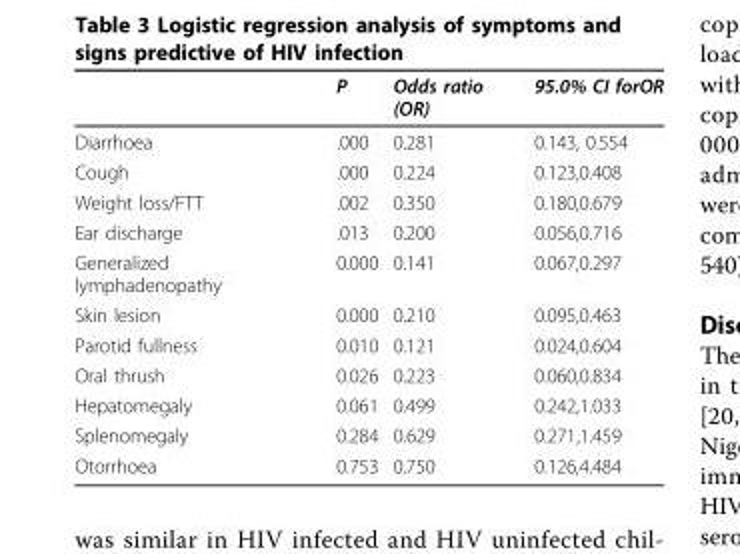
<table><thead><tr><td></td><td>P</td><td>Odds ratio (OR)</td><td>95.0% CI forOR</td></tr></thead><tbody><tr><td>Diarrhoea</td><td>.000</td><td>0.281</td><td>0.143, 0.554</td></tr><tr><td>Cough</td><td>.000</td><td>0.224</td><td>0.123,0.408</td></tr><tr><td>Weight loss/FTT</td><td>.002</td><td>0.350</td><td>0.180,0.679</td></tr><tr><td>Ear discharge</td><td>.013</td><td>0.200</td><td>0.056,0.716</td></tr><tr><td>Generalized lymphadenopathy</td><td>0.000</td><td>0.141</td><td>0.067,0.297</td></tr><tr><td>Skin lesion</td><td>0.000</td><td>0.210</td><td>0.095,0.463</td></tr><tr><td>Parotid fullness</td><td>0.010</td><td>0.121</td><td>0.024,0.604</td></tr><tr><td>Oral thrush</td><td>0.026</td><td>0.223</td><td>0.060,0.834</td></tr><tr><td>Hepatomegaly</td><td>0.061</td><td>0.499</td><td>0.242,1.033</td></tr><tr><td>Splenomegaly</td><td>0.284</td><td>0.629</td><td>0.271,1.459</td></tr><tr><td>Otorrhoea</td><td>0.753</td><td>0.750</td><td>0.126,4.484</td></tr></tbody></table>